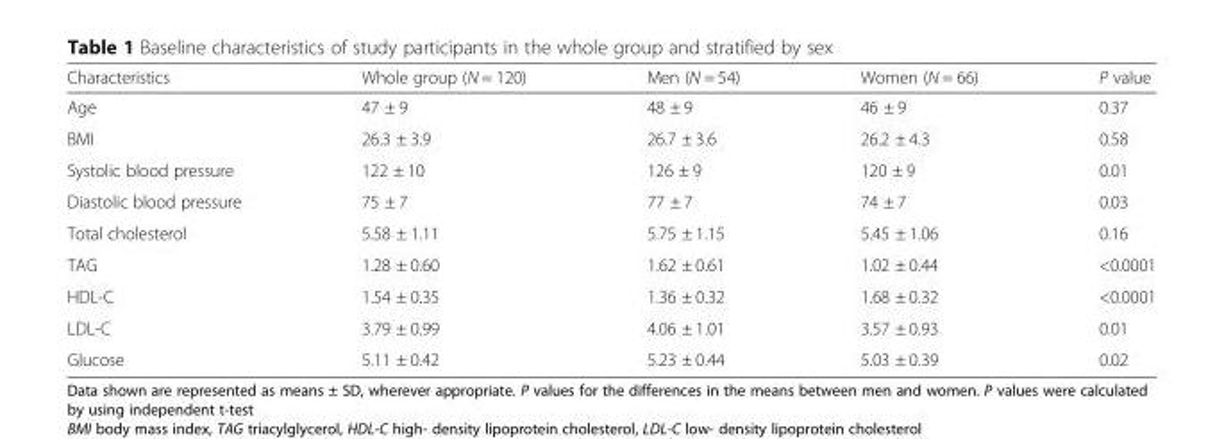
<table><thead><tr><td>Characteristics</td><td>Whole group (N = 120)</td><td>Men (N = 54)</td><td>Women (N = 66)</td><td>P value</td></tr></thead><tbody><tr><td>Age</td><td>47 ± 9</td><td>48 ± 9</td><td>46 ± 9</td><td>0.37</td></tr><tr><td>BMI</td><td>26.3 ± 3.9</td><td>26.7 ± 3.6</td><td>26.2 ± 4.3</td><td>0.58</td></tr><tr><td>Systolic blood pressure</td><td>122 ± 10</td><td>126 ± 9</td><td>120 ± 9</td><td>0.01</td></tr><tr><td>Diastolic blood pressure</td><td>75 ± 7</td><td>77 ± 7</td><td>74 ± 7</td><td>0.03</td></tr><tr><td>Total cholesterol</td><td>5.58 ± 1.11</td><td>5.75 ± 1.15</td><td>5.45 ± 1.06</td><td>0.16</td></tr><tr><td>TAG</td><td>1.28 ± 0.60</td><td>1.62 ± 0.61</td><td>1.02 ± 0.44</td><td>&lt;0.0001</td></tr><tr><td>HDL-C</td><td>1.54 ± 0.35</td><td>1.36 ± 0.32</td><td>1.68 ± 0.32</td><td>&lt;0.0001</td></tr><tr><td>LDL-C</td><td>3.79 ± 0.99</td><td>4.06 ± 1.01</td><td>3.57 ± 0.93</td><td>0.01</td></tr><tr><td>Glucose</td><td>5.11 ± 0.42</td><td>5.23 ± 0.44</td><td>5.03 ± 0.39</td><td>0.02</td></tr></tbody></table>